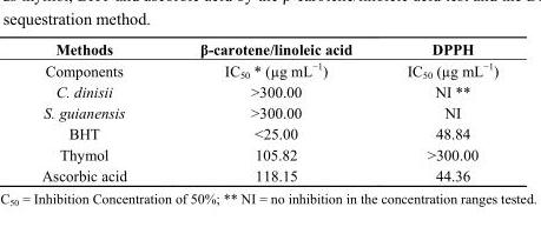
<table><thead><tr><td>Methods</td><td>β-carotene/linoleic acid</td><td>DPPH</td></tr></thead><tbody><tr><td>Components</td><td>IC<sub>50</sub> * (µg mL<sup>−1</sup>)</td><td>IC<sub>50</sub> (µg mL<sup>−1</sup>)</td></tr><tr><td>C. dinisii</td><td>&gt;300.00</td><td>NI **</td></tr><tr><td>S. guianensis</td><td>&gt;300.00</td><td>NI</td></tr><tr><td>BHT</td><td>&lt;25.00</td><td>48.84</td></tr><tr><td>Thymol</td><td>105.82</td><td>&gt;300.00</td></tr><tr><td>Ascorbic acid</td><td>118.15</td><td>44.36</td></tr></tbody></table>